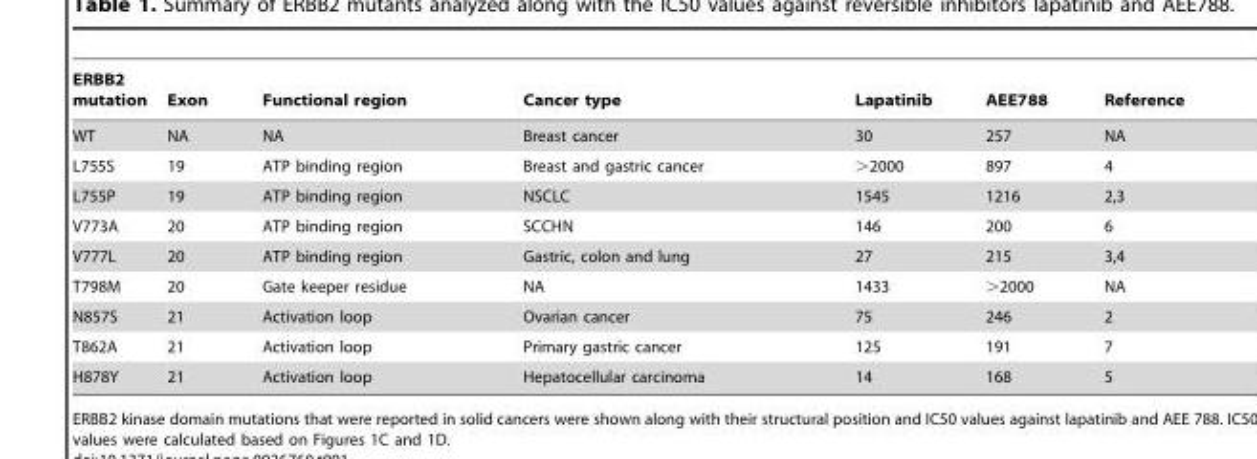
<table><thead><tr><td>ERBB2 mutation</td><td>Exon</td><td>Functional region</td><td>Cancer type</td><td>Lapatinib</td><td>AEE788</td><td>Reference</td></tr></thead><tbody><tr><td>WT</td><td>NA</td><td>NA</td><td>Breast cancer</td><td>30</td><td>257</td><td>NA</td></tr><tr><td>L755S</td><td>19</td><td>ATP binding region</td><td>Breast and gastric cancer</td><td>&gt;2000</td><td>897</td><td>4</td></tr><tr><td>L755P</td><td>19</td><td>ATP binding region</td><td>NSCLC</td><td>1545</td><td>1216</td><td>2,3</td></tr><tr><td>V773A</td><td>20</td><td>ATP binding region</td><td>SCCHN</td><td>146</td><td>200</td><td>6</td></tr><tr><td>V777L</td><td>20</td><td>ATP binding region</td><td>Gastric, colon and lung</td><td>27</td><td>215</td><td>3,4</td></tr><tr><td>T798M</td><td>20</td><td>Gate keeper residue</td><td>NA</td><td>1433</td><td>&gt;2000</td><td>NA</td></tr><tr><td>N857S</td><td>21</td><td>Activation loop</td><td>Ovarian cancer</td><td>75</td><td>246</td><td>2</td></tr><tr><td>T862A</td><td>21</td><td>Activation loop</td><td>Primary gastric cancer</td><td>125</td><td>191</td><td>7</td></tr><tr><td>H878Y</td><td>21</td><td>Activation loop</td><td>Hepatocellular carcinoma</td><td>14</td><td>168</td><td>5</td></tr></tbody></table>